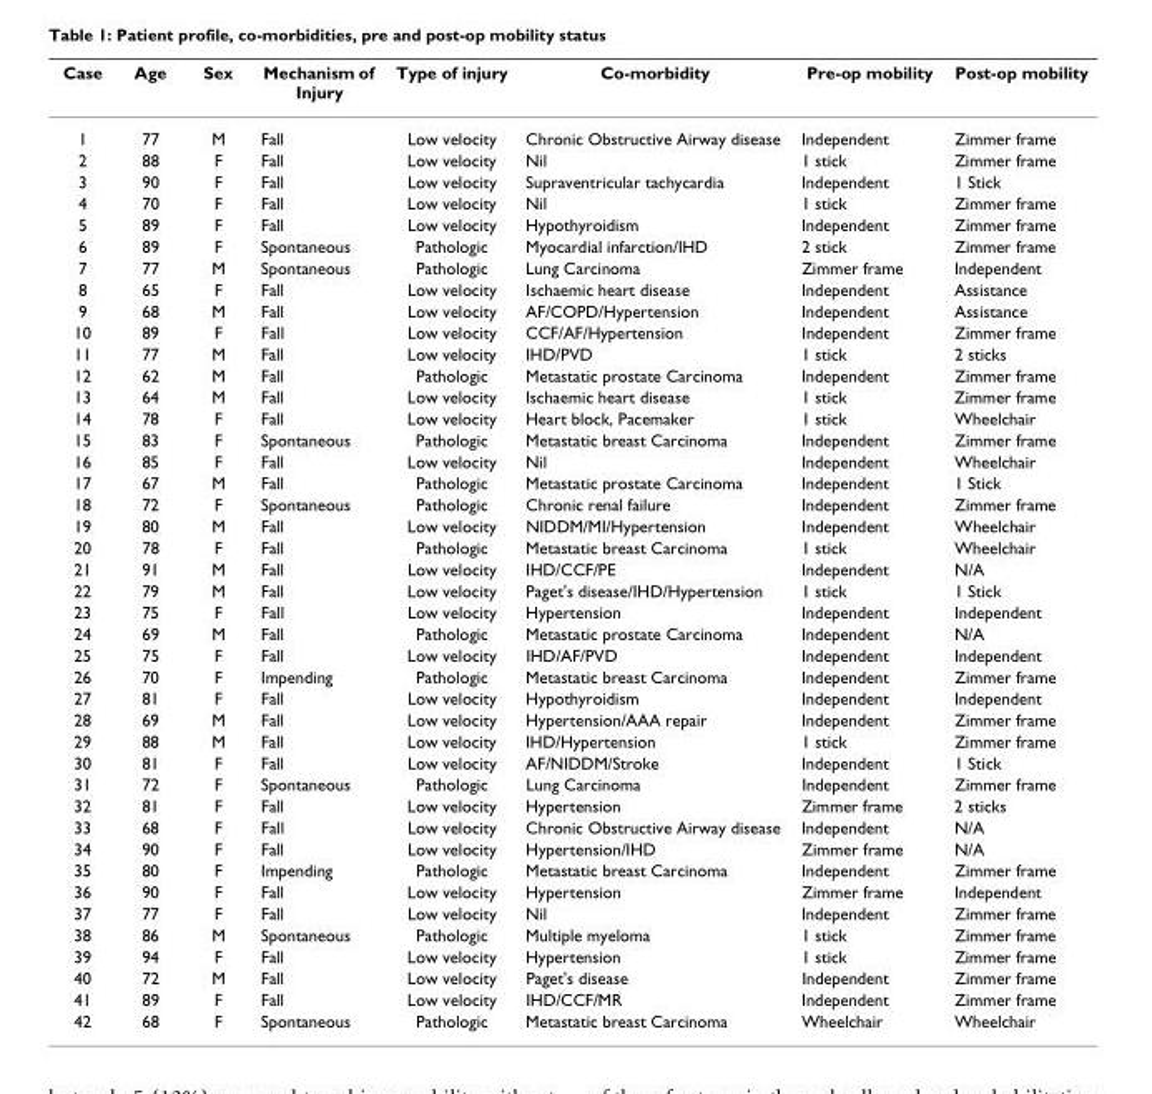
<table><thead><tr><td>Case</td><td>Age</td><td>Sex</td><td>Mechanism of Injury</td><td>Type of injury</td><td>Co-morbidity</td><td>Pre-op mobility</td><td>Post-op mobility</td></tr></thead><tbody><tr><td>1</td><td>77</td><td>M</td><td>Fall</td><td>Low velocity</td><td>Chronic Obstructive Airway disease</td><td>Independent</td><td>Zimmer frame</td></tr><tr><td>2</td><td>88</td><td>F</td><td>Fall</td><td>Low velocity</td><td>Nil</td><td>1 stick</td><td>Zimmer frame</td></tr><tr><td>3</td><td>90</td><td>F</td><td>Fall</td><td>Low velocity</td><td>Supraventricular tachycardia</td><td>Independent</td><td>1 Stick</td></tr><tr><td>4</td><td>70</td><td>F</td><td>Fall</td><td>Low velocity</td><td>Nil</td><td>1 stick</td><td>Zimmer frame</td></tr><tr><td>5</td><td>89</td><td>F</td><td>Fall</td><td>Low velocity</td><td>Hypothyroidism</td><td>Independent</td><td>Zimmer frame</td></tr><tr><td>6</td><td>89</td><td>F</td><td>Spontaneous</td><td>Pathologic</td><td>Myocardial infarction/IHD</td><td>2 stick</td><td>Zimmer frame</td></tr><tr><td>7</td><td>77</td><td>M</td><td>Spontaneous</td><td>Pathologic</td><td>Lung Carcinoma</td><td>Zimmer frame</td><td>Independent</td></tr><tr><td>8</td><td>65</td><td>F</td><td>Fall</td><td>Low velocity</td><td>Ischaemic heart disease</td><td>Independent</td><td>Assistance</td></tr><tr><td>9</td><td>68</td><td>M</td><td>Fall</td><td>Low velocity</td><td>AF/COPD/Hypertension</td><td>Independent</td><td>Assistance</td></tr><tr><td>10</td><td>89</td><td>F</td><td>Fall</td><td>Low velocity</td><td>CCF/AF/Hypertension</td><td>Independent</td><td>Zimmer frame</td></tr><tr><td>11</td><td>77</td><td>M</td><td>Fall</td><td>Low velocity</td><td>IHD/PVD</td><td>1 stick</td><td>2 sticks</td></tr><tr><td>12</td><td>62</td><td>M</td><td>Fall</td><td>Pathologic</td><td>Metastatic prostate Carcinoma</td><td>Independent</td><td>Zimmer frame</td></tr><tr><td>13</td><td>64</td><td>M</td><td>Fall</td><td>Low velocity</td><td>Ischaemic heart disease</td><td>1 stick</td><td>Zimmer frame</td></tr><tr><td>14</td><td>78</td><td>F</td><td>Fall</td><td>Low velocity</td><td>Heart block, Pacemaker</td><td>1 stick</td><td>Wheelchair</td></tr><tr><td>15</td><td>83</td><td>F</td><td>Spontaneous</td><td>Pathologic</td><td>Metastatic breast Carcinoma</td><td>Independent</td><td>Zimmer frame</td></tr><tr><td>16</td><td>85</td><td>F</td><td>Fall</td><td>Low velocity</td><td>Nil</td><td>Independent</td><td>Wheelchair</td></tr><tr><td>17</td><td>67</td><td>M</td><td>Fall</td><td>Pathologic</td><td>Metastatic prostate Carcinoma</td><td>Independent</td><td>1 Stick</td></tr><tr><td>18</td><td>72</td><td>F</td><td>Spontaneous</td><td>Pathologic</td><td>Chronic renal failure</td><td>Independent</td><td>Zimmer frame</td></tr><tr><td>19</td><td>80</td><td>M</td><td>Fall</td><td>Low velocity</td><td>NIDDM/MI/Hypertension</td><td>Independent</td><td>Wheelchair</td></tr><tr><td>20</td><td>78</td><td>F</td><td>Fall</td><td>Pathologic</td><td>Metastatic breast Carcinoma</td><td>1 stick</td><td>Wheelchair</td></tr><tr><td>21</td><td>91</td><td>M</td><td>Fall</td><td>Low velocity</td><td>IHD/CCF/PE</td><td>Independent</td><td>N/A</td></tr><tr><td>22</td><td>79</td><td>M</td><td>Fall</td><td>Low velocity</td><td>Paget&#x27;s disease/IHD/Hypertension</td><td>1 stick</td><td>1 Stick</td></tr><tr><td>23</td><td>75</td><td>F</td><td>Fall</td><td>Low velocity</td><td>Hypertension</td><td>Independent</td><td>Independent</td></tr><tr><td>24</td><td>69</td><td>M</td><td>Fall</td><td>Pathologic</td><td>Metastatic prostate Carcinoma</td><td>Independent</td><td>N/A</td></tr><tr><td>25</td><td>75</td><td>F</td><td>Fall</td><td>Low velocity</td><td>IHD/AF/PVD</td><td>Independent</td><td>Independent</td></tr><tr><td>26</td><td>70</td><td>F</td><td>Impending</td><td>Pathologic</td><td>Metastatic breast Carcinoma</td><td>Independent</td><td>Zimmer frame</td></tr><tr><td>27</td><td>81</td><td>F</td><td>Fall</td><td>Low velocity</td><td>Hypothyroidism</td><td>Independent</td><td>Independent</td></tr><tr><td>28</td><td>69</td><td>M</td><td>Fall</td><td>Low velocity</td><td>Hypertension/AAA repair</td><td>Independent</td><td>Zimmer frame</td></tr><tr><td>29</td><td>88</td><td>M</td><td>Fall</td><td>Low velocity</td><td>IHD/Hypertension</td><td>1 stick</td><td>Zimmer frame</td></tr><tr><td>30</td><td>81</td><td>F</td><td>Fall</td><td>Low velocity</td><td>AF/NIDDM/Stroke</td><td>Independent</td><td>1 Stick</td></tr><tr><td>31</td><td>72</td><td>F</td><td>Spontaneous</td><td>Pathologic</td><td>Lung Carcinoma</td><td>Independent</td><td>Zimmer frame</td></tr><tr><td>32</td><td>81</td><td>F</td><td>Fall</td><td>Low velocity</td><td>Hypertension</td><td>Zimmer frame</td><td>2 sticks</td></tr><tr><td>33</td><td>68</td><td>F</td><td>Fall</td><td>Low velocity</td><td>Chronic Obstructive Airway disease</td><td>Independent</td><td>N/A</td></tr><tr><td>34</td><td>90</td><td>F</td><td>Fall</td><td>Low velocity</td><td>Hypertension/IHD</td><td>Zimmer frame</td><td>N/A</td></tr><tr><td>35</td><td>80</td><td>F</td><td>Impending</td><td>Pathologic</td><td>Metastatic breast Carcinoma</td><td>Independent</td><td>Zimmer frame</td></tr><tr><td>36</td><td>90</td><td>F</td><td>Fall</td><td>Low velocity</td><td>Hypertension</td><td>Zimmer frame</td><td>Independent</td></tr><tr><td>37</td><td>77</td><td>F</td><td>Fall</td><td>Low velocity</td><td>Nil</td><td>Independent</td><td>Zimmer frame</td></tr><tr><td>38</td><td>86</td><td>M</td><td>Spontaneous</td><td>Pathologic</td><td>Multiple myeloma</td><td>1 stick</td><td>Zimmer frame</td></tr><tr><td>39</td><td>94</td><td>F</td><td>Fall</td><td>Low velocity</td><td>Hypertension</td><td>1 stick</td><td>Zimmer frame</td></tr><tr><td>40</td><td>72</td><td>M</td><td>Fall</td><td>Low velocity</td><td>Paget&#x27;s disease</td><td>Independent</td><td>Zimmer frame</td></tr><tr><td>41</td><td>89</td><td>F</td><td>Fall</td><td>Low velocity</td><td>IHD/CCF/MR</td><td>Independent</td><td>Zimmer frame</td></tr><tr><td>42</td><td>68</td><td>F</td><td>Spontaneous</td><td>Pathologic</td><td>Metastatic breast Carcinoma</td><td>Wheelchair</td><td>Wheelchair</td></tr></tbody></table>